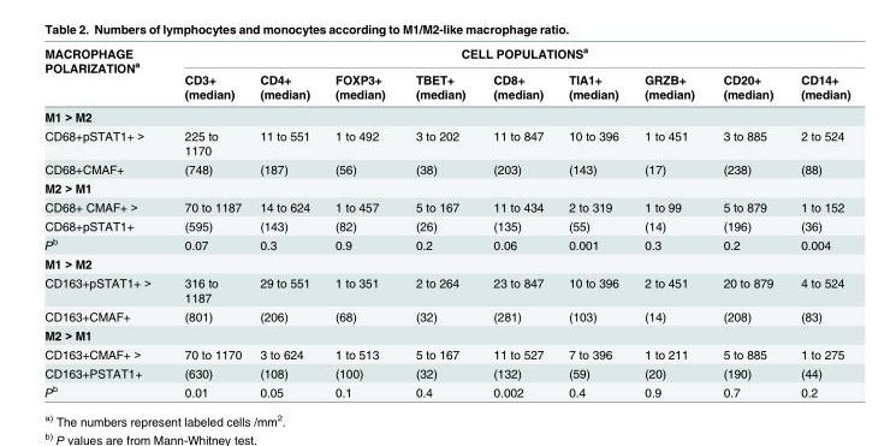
<table><thead><tr><td rowspan="2">MACROPHAGE POLARIZATION<sup>a</sup></td><td colspan="9">CELL POPULATIONS<sup>a</sup></td></tr><tr><td>CD3+ (median)</td><td>CD4+ (median)</td><td>FOXP3+ (median)</td><td>TBET+ (median)</td><td>CD8+ (median)</td><td>TIA1+ (median)</td><td>GRZB+ (median)</td><td>CD20+ (median)</td><td>CD14+ (median)</td></tr></thead><tbody><tr><td colspan="10">M1 &gt; M2</td></tr><tr><td>CD68+pSTAT1+ &gt;</td><td>225 to 1170</td><td>11 to 551</td><td>1 to 492</td><td>3 to 202</td><td>11 to 847</td><td>10 to 396</td><td>1 to 451</td><td>3 to 885</td><td>2 to 524</td></tr><tr><td>CD68+CMAF+</td><td>(748)</td><td>(187)</td><td>(56)</td><td>(38)</td><td>(203)</td><td>(143)</td><td>(17)</td><td>(238)</td><td>(88)</td></tr><tr><td colspan="10">M2 &gt; M1</td></tr><tr><td>CD68+ CMAF+ &gt;</td><td>70 to 1187</td><td>14 to 624</td><td>1 to 457</td><td>5 to 167</td><td>11 to 434</td><td>2 to 319</td><td>1 to 99</td><td>5 to 879</td><td>1 to 152</td></tr><tr><td>CD68+pSTAT1+</td><td>(595)</td><td>(143)</td><td>(82)</td><td>(26)</td><td>(135)</td><td>(55)</td><td>(14)</td><td>(196)</td><td>(36)</td></tr><tr><td>P<sup>b</sup></td><td>0.07</td><td>0.3</td><td>0.9</td><td>0.2</td><td>0.06</td><td>0.001</td><td>0.3</td><td>0.2</td><td>0.004</td></tr><tr><td colspan="10">M1 &gt; M2</td></tr><tr><td>CD163+pSTAT1+ &gt;</td><td>316 to 1187</td><td>29 to 551</td><td>1 to 351</td><td>2 to 264</td><td>23 to 847</td><td>10 to 396</td><td>2 to 451</td><td>20 to 879</td><td>4 to 524</td></tr><tr><td>CD163+CMAF+</td><td>(801)</td><td>(206)</td><td>(68)</td><td>(32)</td><td>(281)</td><td>(103)</td><td>(14)</td><td>(208)</td><td>(83)</td></tr><tr><td colspan="10">M2 &gt; M1</td></tr><tr><td>CD163+CMAF+ &gt;</td><td>70 to 1170</td><td>3 to 624</td><td>1 to 513</td><td>5 to 167</td><td>11 to 527</td><td>7 to 396</td><td>1 to 211</td><td>5 to 885</td><td>1 to 275</td></tr><tr><td>CD163+PSTAT1+</td><td>(630)</td><td>(108)</td><td>(100)</td><td>(32)</td><td>(132)</td><td>(59)</td><td>(20)</td><td>(190)</td><td>(44)</td></tr><tr><td>P<sup>b</sup></td><td>0.01</td><td>0.05</td><td>0.1</td><td>0.4</td><td>0.002</td><td>0.4</td><td>0.9</td><td>0.7</td><td>0.2</td></tr></tbody></table>